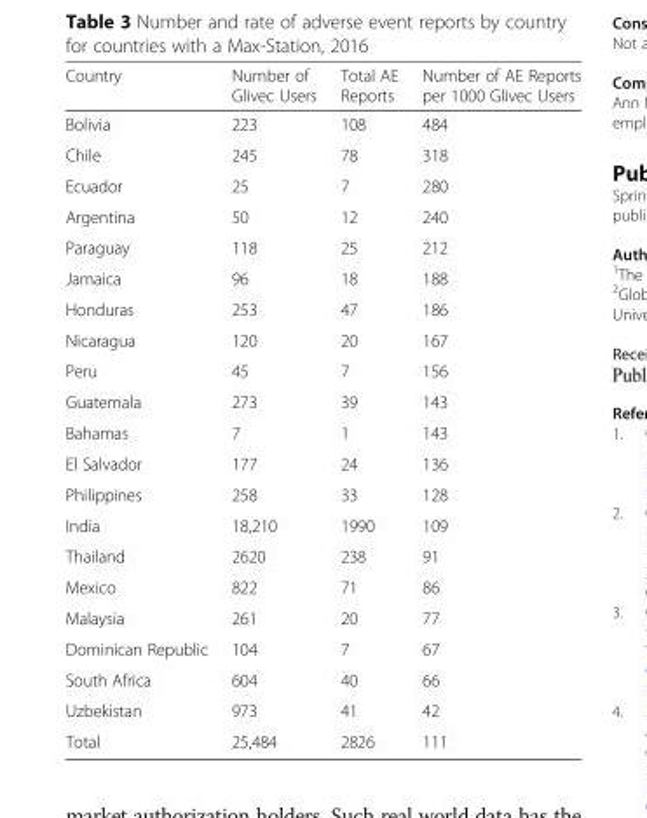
<table><thead><tr><td>Country</td><td>Number of Glivec Users</td><td>Total AE Reports</td><td>Number of AE Reports per 1000 Glivec Users</td></tr></thead><tbody><tr><td>Bolivia</td><td>223</td><td>108</td><td>484</td></tr><tr><td>Chile</td><td>245</td><td>78</td><td>318</td></tr><tr><td>Ecuador</td><td>25</td><td>7</td><td>280</td></tr><tr><td>Argentina</td><td>50</td><td>12</td><td>240</td></tr><tr><td>Paraguay</td><td>118</td><td>25</td><td>212</td></tr><tr><td>Jamaica</td><td>96</td><td>18</td><td>188</td></tr><tr><td>Honduras</td><td>253</td><td>47</td><td>186</td></tr><tr><td>Nicaragua</td><td>120</td><td>20</td><td>167</td></tr><tr><td>Peru</td><td>45</td><td>7</td><td>156</td></tr><tr><td>Guatemala</td><td>273</td><td>39</td><td>143</td></tr><tr><td>Bahamas</td><td>7</td><td>1</td><td>143</td></tr><tr><td>El Salvador</td><td>177</td><td>24</td><td>136</td></tr><tr><td>Philippines</td><td>258</td><td>33</td><td>128</td></tr><tr><td>India</td><td>18,210</td><td>1990</td><td>109</td></tr><tr><td>Thailand</td><td>2620</td><td>238</td><td>91</td></tr><tr><td>Mexico</td><td>822</td><td>71</td><td>86</td></tr><tr><td>Malaysia</td><td>261</td><td>20</td><td>77</td></tr><tr><td>Dominican Republic</td><td>104</td><td>7</td><td>67</td></tr><tr><td>South Africa</td><td>604</td><td>40</td><td>66</td></tr><tr><td>Uzbekistan</td><td>973</td><td>41</td><td>42</td></tr><tr><td>Total</td><td>25,484</td><td>2826</td><td>111</td></tr></tbody></table>